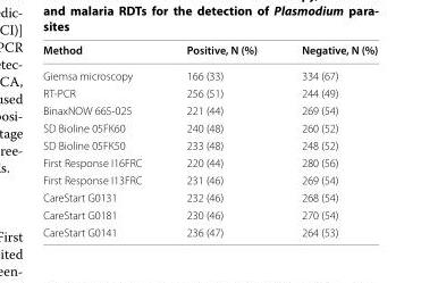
<table><thead><tr><td>Method</td><td>Positive, N (%)</td><td>Negative, N (%)</td></tr></thead><tbody><tr><td>Giemsa microscopy</td><td>166 (33)</td><td>334 (67)</td></tr><tr><td>RT-PCR</td><td>256 (51)</td><td>244 (49)</td></tr><tr><td>BinaxNOW 665-025</td><td>221 (44)</td><td>269 (54)</td></tr><tr><td>SD Bioline 05FK60</td><td>240 (48)</td><td>260 (52)</td></tr><tr><td>SD Bioline 05FK50</td><td>233 (48)</td><td>248 (52)</td></tr><tr><td>First Response I16FRC</td><td>220 (44)</td><td>280 (56)</td></tr><tr><td>First Response I13FRC</td><td>231 (46)</td><td>269 (54)</td></tr><tr><td>CareStart G0131</td><td>232 (46)</td><td>268 (54)</td></tr><tr><td>CareStart G0181</td><td>230 (46)</td><td>270 (54)</td></tr><tr><td>CareStart G0141</td><td>236 (47)</td><td>264 (53)</td></tr></tbody></table>